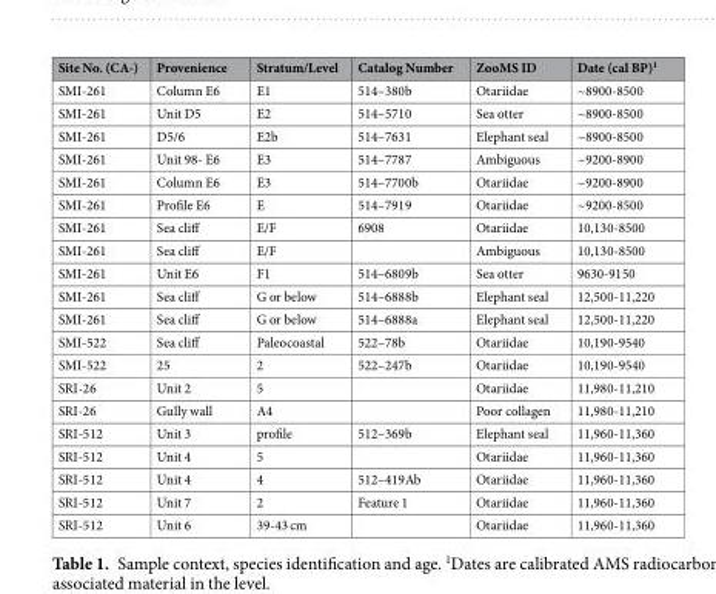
<table><thead><tr><td>Site No. (CA-)</td><td>Provenience</td><td>Stratum/Level</td><td>Catalog Number</td><td>ZooMS ID</td><td>Date (cal BP)<sup>1</sup></td></tr></thead><tbody><tr><td>SMI-261</td><td>Column E6</td><td>E1</td><td>514–380b</td><td>Otariidae</td><td>~8900-8500</td></tr><tr><td>SMI-261</td><td>Unit D5</td><td>E2</td><td>514–5710</td><td>Sea otter</td><td>~8900-8500</td></tr><tr><td>SMI-261</td><td>D5/6</td><td>E2b</td><td>514–7631</td><td>Elephant seal</td><td>~8900-8500</td></tr><tr><td>SMI-261</td><td>Unit 98- E6</td><td>E3</td><td>514–7787</td><td>Ambiguous</td><td>~9200-8900</td></tr><tr><td>SMI-261</td><td>Column E6</td><td>E3</td><td>514–7700b</td><td>Otariidae</td><td>~9200-8900</td></tr><tr><td>SMI-261</td><td>Profile E6</td><td>E</td><td>514–7919</td><td>Otariidae</td><td>~9200-8500</td></tr><tr><td>SMI-261</td><td>Sea cliff</td><td>E/F</td><td>6908</td><td>Otariidae</td><td>10,130-8500</td></tr><tr><td>SMI-261</td><td>Sea cliff</td><td>E/F</td><td></td><td>Ambiguous</td><td>10,130-8500</td></tr><tr><td>SMI-261</td><td>Unit E6</td><td>F1</td><td>514–6809b</td><td>Sea otter</td><td>9630-9150</td></tr><tr><td>SMI-261</td><td>Sea cliff</td><td>G or below</td><td>514–6888b</td><td>Elephant seal</td><td>12,500-11,220</td></tr><tr><td>SMI-261</td><td>Sea cliff</td><td>G or below</td><td>514–6888a</td><td>Elephant seal</td><td>12,500-11,220</td></tr><tr><td>SMI-522</td><td>Sea cliff</td><td>Paleocoastal</td><td>522–78b</td><td>Otariidae</td><td>10,190-9540</td></tr><tr><td>SMI-522</td><td>25</td><td>2</td><td>522–247b</td><td>Otariidae</td><td>10,190-9540</td></tr><tr><td>SRI-26</td><td>Unit 2</td><td>5</td><td></td><td>Otariidae</td><td>11,980-11,210</td></tr><tr><td>SRI-26</td><td>Gully wall</td><td>A4</td><td></td><td>Poor collagen</td><td>11,980-11,210</td></tr><tr><td>SRI-512</td><td>Unit 3</td><td>profile</td><td>512–369b</td><td>Elephant seal</td><td>11,960-11,360</td></tr><tr><td>SRI-512</td><td>Unit 4</td><td>5</td><td></td><td>Otariidae</td><td>11,960-11,360</td></tr><tr><td>SRI-512</td><td>Unit 4</td><td>4</td><td>512–419Ab</td><td>Otariidae</td><td>11,960-11,360</td></tr><tr><td>SRI-512</td><td>Unit 7</td><td>2</td><td>Feature 1</td><td>Otariidae</td><td>11,960-11,360</td></tr><tr><td>SRI-512</td><td>Unit 6</td><td>39-43 cm</td><td></td><td>Otariidae</td><td>11,960-11,360</td></tr></tbody></table>